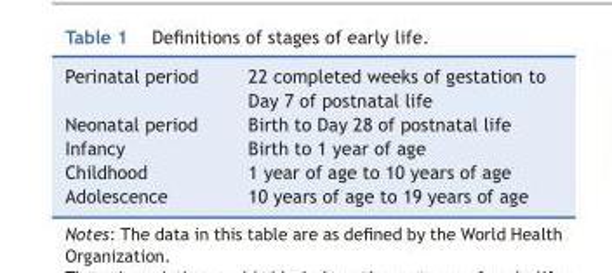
<table><tbody><tr><td>Perinatal period</td><td>22 completed weeks of gestation to Day 7 of postnatal life</td></tr><tr><td>Neonatal period</td><td>Birth to Day 28 of postnatal life</td></tr><tr><td>Infancy</td><td>Birth to 1 year of age</td></tr><tr><td>Childhood</td><td>1 year of age to 10 years of age</td></tr><tr><td>Adolescence</td><td>10 years of age to 19 years of age</td></tr></tbody></table>